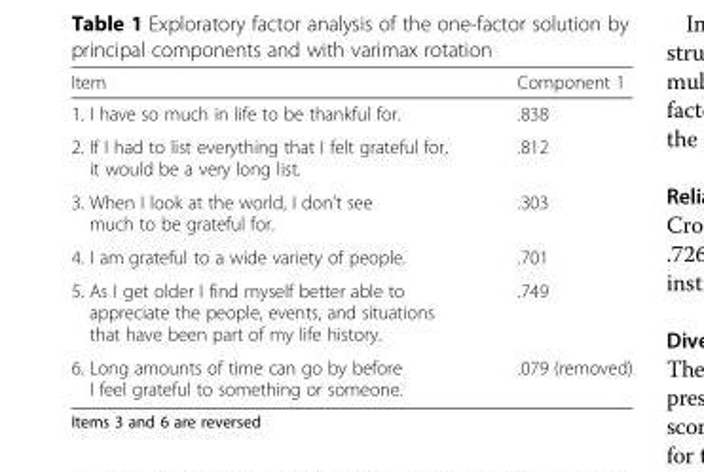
<table><thead><tr><td>Item</td><td>Component 1</td></tr></thead><tbody><tr><td>1. I have so much in life to be thankful for.</td><td>.838</td></tr><tr><td>2. If I had to list everything that I felt grateful for, it would be a very long list.</td><td>.812</td></tr><tr><td>3. When I look at the world, I don’t see much to be grateful for.</td><td>.303</td></tr><tr><td>4. I am grateful to a wide variety of people.</td><td>.701</td></tr><tr><td>5. As I get older I find myself better able to appreciate the people, events, and situations that have been part of my life history.</td><td>.749</td></tr><tr><td>6. Long amounts of time can go by before I feel grateful to something or someone.</td><td>.079 (removed)</td></tr></tbody></table>